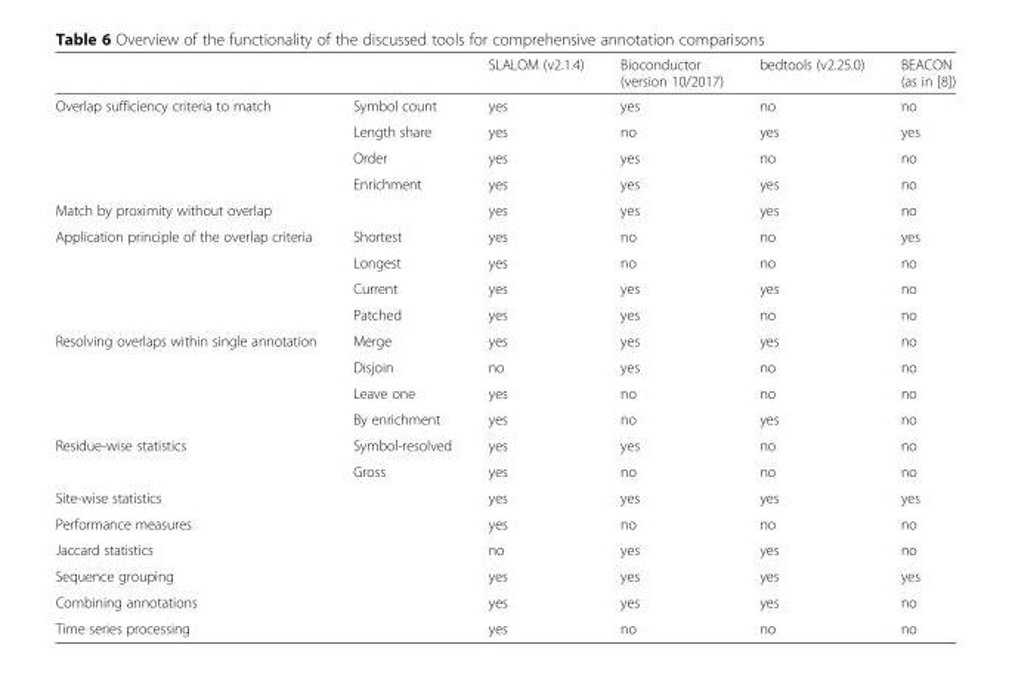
<table><thead><tr><td></td><td></td><td>SLALOM (v2.1.4)</td><td>Bioconductor (version 10/2017)</td><td>bedtools (v2.25.0)</td><td>BEACON (as in [8])</td></tr></thead><tbody><tr><td rowspan="4">Overlap sufficiency criteria to match</td><td>Symbol count</td><td>yes</td><td>yes</td><td>no</td><td>no</td></tr><tr><td>Length share</td><td>yes</td><td>no</td><td>yes</td><td>yes</td></tr><tr><td>Order</td><td>yes</td><td>yes</td><td>no</td><td>no</td></tr><tr><td>Enrichment</td><td>yes</td><td>yes</td><td>yes</td><td>no</td></tr><tr><td colspan="2">Match by proximity without overlap</td><td>yes</td><td>yes</td><td>yes</td><td>no</td></tr><tr><td rowspan="4">Application principle of the overlap criteria</td><td>Shortest</td><td>yes</td><td>no</td><td>no</td><td>yes</td></tr><tr><td>Longest</td><td>yes</td><td>no</td><td>no</td><td>no</td></tr><tr><td>Current</td><td>yes</td><td>yes</td><td>yes</td><td>no</td></tr><tr><td>Patched</td><td>yes</td><td>yes</td><td>no</td><td>no</td></tr><tr><td rowspan="4">Resolving overlaps within single annotation</td><td>Merge</td><td>yes</td><td>yes</td><td>yes</td><td>no</td></tr><tr><td>Disjoin</td><td>no</td><td>yes</td><td>no</td><td>no</td></tr><tr><td>Leave one</td><td>yes</td><td>no</td><td>no</td><td>no</td></tr><tr><td>By enrichment</td><td>yes</td><td>no</td><td>yes</td><td>no</td></tr><tr><td rowspan="2">Residue-wise statistics</td><td>Symbol-resolved</td><td>yes</td><td>yes</td><td>no</td><td>no</td></tr><tr><td>Gross</td><td>yes</td><td>no</td><td>no</td><td>no</td></tr><tr><td colspan="2">Site-wise statistics</td><td>yes</td><td>yes</td><td>yes</td><td>yes</td></tr><tr><td colspan="2">Performance measures</td><td>yes</td><td>no</td><td>no</td><td>no</td></tr><tr><td colspan="2">Jaccard statistics</td><td>no</td><td>yes</td><td>yes</td><td>no</td></tr><tr><td colspan="2">Sequence grouping</td><td>yes</td><td>yes</td><td>yes</td><td>yes</td></tr><tr><td colspan="2">Combining annotations</td><td>yes</td><td>yes</td><td>yes</td><td>no</td></tr><tr><td colspan="2">Time series processing</td><td>yes</td><td>no</td><td>no</td><td>no</td></tr></tbody></table>